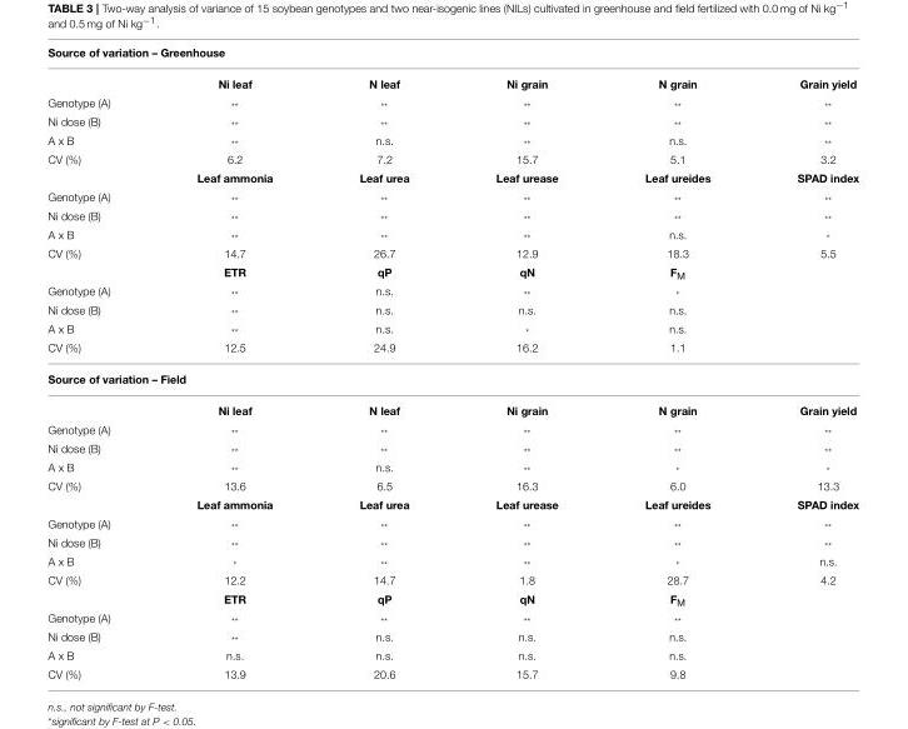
<table><thead><tr><td colspan="6">Source of variation – Greenhouse</td></tr><tr><td></td><td>Ni leaf</td><td>N leaf</td><td>Ni grain</td><td>N grain</td><td>Grain yield</td></tr></thead><tbody><tr><td>Genotype (A)</td><td>**</td><td>**</td><td>**</td><td>**</td><td>**</td></tr><tr><td>Ni dose (B)</td><td>**</td><td>**</td><td>**</td><td>**</td><td>**</td></tr><tr><td>A x B</td><td>**</td><td>n.s.</td><td>**</td><td>n.s.</td><td>**</td></tr><tr><td rowspan="2">CV (%)</td><td>6.2</td><td>7.2</td><td>15.7</td><td>5.1</td><td>3.2</td></tr><tr><td>Leaf ammonia</td><td>Leaf urea</td><td>Leaf urease</td><td>Leaf ureides</td><td>SPAD index</td></tr><tr><td>Genotype (A)</td><td>**</td><td>**</td><td>**</td><td>**</td><td>**</td></tr><tr><td>Ni dose (B)</td><td>**</td><td>**</td><td>**</td><td>**</td><td>**</td></tr><tr><td>A x B</td><td>**</td><td>**</td><td>**</td><td>n.s.</td><td>*</td></tr><tr><td rowspan="2">CV (%)</td><td>14.7</td><td>26.7</td><td>12.9</td><td>18.3</td><td>5.5</td></tr><tr><td>ETR</td><td>qP</td><td>qN</td><td>F<sub>M</sub></td><td></td></tr><tr><td>Genotype (A)</td><td>**</td><td>n.s.</td><td>**</td><td>*</td><td></td></tr><tr><td>Ni dose (B)</td><td>**</td><td>n.s.</td><td>n.s.</td><td>n.s.</td><td></td></tr><tr><td>A x B</td><td>**</td><td>n.s.</td><td>*</td><td>n.s.</td><td></td></tr><tr><td>CV (%)</td><td>12.5</td><td>24.9</td><td>16.2</td><td>1.1</td><td></td></tr><tr><td colspan="6">Source of variation – Field</td></tr><tr><td></td><td>Ni leaf</td><td>N leaf</td><td>Ni grain</td><td>N grain</td><td>Grain yield</td></tr><tr><td>Genotype (A)</td><td>**</td><td>**</td><td>**</td><td>**</td><td>**</td></tr><tr><td>Ni dose (B)</td><td>**</td><td>**</td><td>**</td><td>**</td><td>**</td></tr><tr><td>A x B</td><td>**</td><td>n.s.</td><td>**</td><td>*</td><td>*</td></tr><tr><td rowspan="2">CV (%)</td><td>13.6</td><td>6.5</td><td>16.3</td><td>6.0</td><td>13.3</td></tr><tr><td>Leaf ammonia</td><td>Leaf urea</td><td>Leaf urease</td><td>Leaf ureides</td><td>SPAD index</td></tr><tr><td>Genotype (A)</td><td>**</td><td>**</td><td>**</td><td>**</td><td>**</td></tr><tr><td>Ni dose (B)</td><td>**</td><td>**</td><td>**</td><td>**</td><td>**</td></tr><tr><td>A x B</td><td>*</td><td>**</td><td>**</td><td>*</td><td>n.s.</td></tr><tr><td rowspan="2">CV (%)</td><td>12.2</td><td>14.7</td><td>1.8</td><td>28.7</td><td>4.2</td></tr><tr><td>ETR</td><td>qP</td><td>qN</td><td>F<sub>M</sub></td><td></td></tr><tr><td>Genotype (A)</td><td>**</td><td>**</td><td>**</td><td>**</td><td></td></tr><tr><td>Ni dose (B)</td><td>**</td><td>n.s.</td><td>n.s.</td><td>n.s.</td><td></td></tr><tr><td>A x B</td><td>n.s.</td><td>n.s.</td><td>n.s.</td><td>n.s.</td><td></td></tr><tr><td>CV (%)</td><td>13.9</td><td>20.6</td><td>15.7</td><td>9.8</td><td></td></tr></tbody></table>